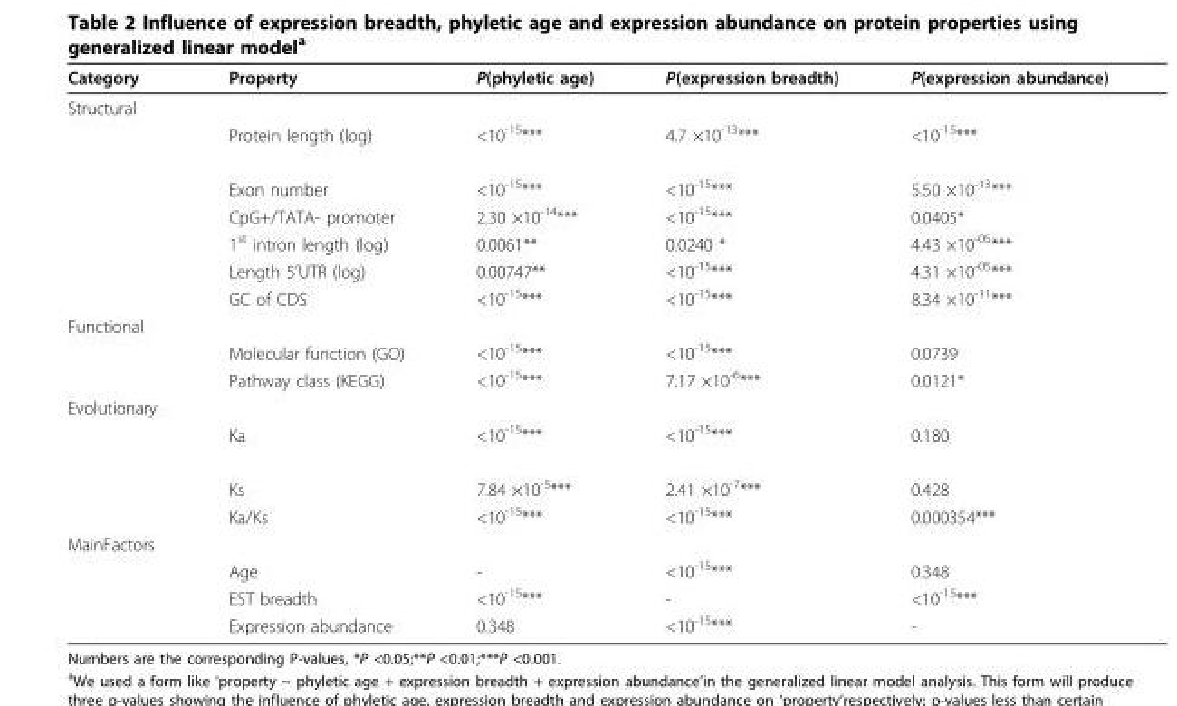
<table><thead><tr><td>Category</td><td>Property</td><td>P(phyletic age)</td><td>P(expression breadth)</td><td>P(expression abundance)</td></tr></thead><tbody><tr><td colspan="5">Structural</td></tr><tr><td></td><td>Protein length (log)</td><td>&lt;10<sup>-15</sup>***</td><td>4.7 ×10<sup>-13</sup>***</td><td>&lt;10<sup>-15</sup>***</td></tr><tr><td></td><td>Exon number</td><td>&lt;10<sup>-15</sup>***</td><td>&lt;10<sup>-15</sup>***</td><td>5.50 ×10<sup>-13</sup>***</td></tr><tr><td></td><td>CpG+/TATA- promoter</td><td>2.30 ×10<sup>-14</sup>***</td><td>&lt;10<sup>-15</sup>***</td><td>0.0405*</td></tr><tr><td></td><td>1<sup>st</sup> intron length (log)</td><td>0.0061**</td><td>0.0240 *</td><td>4.43 ×10<sup>-05</sup>***</td></tr><tr><td></td><td>Length 5’UTR (log)</td><td>0.00747**</td><td>&lt;10<sup>-15</sup>***</td><td>4.31 ×10<sup>-05</sup>***</td></tr><tr><td></td><td>GC of CDS</td><td>&lt;10<sup>-15</sup>***</td><td>&lt;10<sup>-15</sup>***</td><td>8.34 ×10<sup>-11</sup>***</td></tr><tr><td colspan="5">Functional</td></tr><tr><td></td><td>Molecular function (GO)</td><td>&lt;10<sup>-15</sup>***</td><td>&lt;10<sup>-15</sup>***</td><td>0.0739</td></tr><tr><td></td><td>Pathway class (KEGG)</td><td>&lt;10<sup>-15</sup>***</td><td>7.17 ×10<sup>-6</sup>***</td><td>0.0121*</td></tr><tr><td colspan="5">Evolutionary</td></tr><tr><td></td><td>Ka</td><td>&lt;10<sup>-15</sup>***</td><td>&lt;10<sup>-15</sup>***</td><td>0.180</td></tr><tr><td></td><td>Ks</td><td>7.84 ×10<sup>-5</sup>***</td><td>2.41 ×10<sup>-7</sup>***</td><td>0.428</td></tr><tr><td></td><td>Ka/Ks</td><td>&lt;10<sup>-15</sup>***</td><td>&lt;10<sup>-15</sup>***</td><td>0.000354***</td></tr><tr><td colspan="5">MainFactors</td></tr><tr><td></td><td>Age</td><td>-</td><td>&lt;10<sup>-15</sup>***</td><td>0.348</td></tr><tr><td></td><td>EST breadth</td><td>&lt;10<sup>-15</sup>***</td><td>-</td><td>&lt;10<sup>-15</sup>***</td></tr><tr><td></td><td>Expression abundance</td><td>0.348</td><td>&lt;10<sup>-15</sup>***</td><td>-</td></tr></tbody></table>